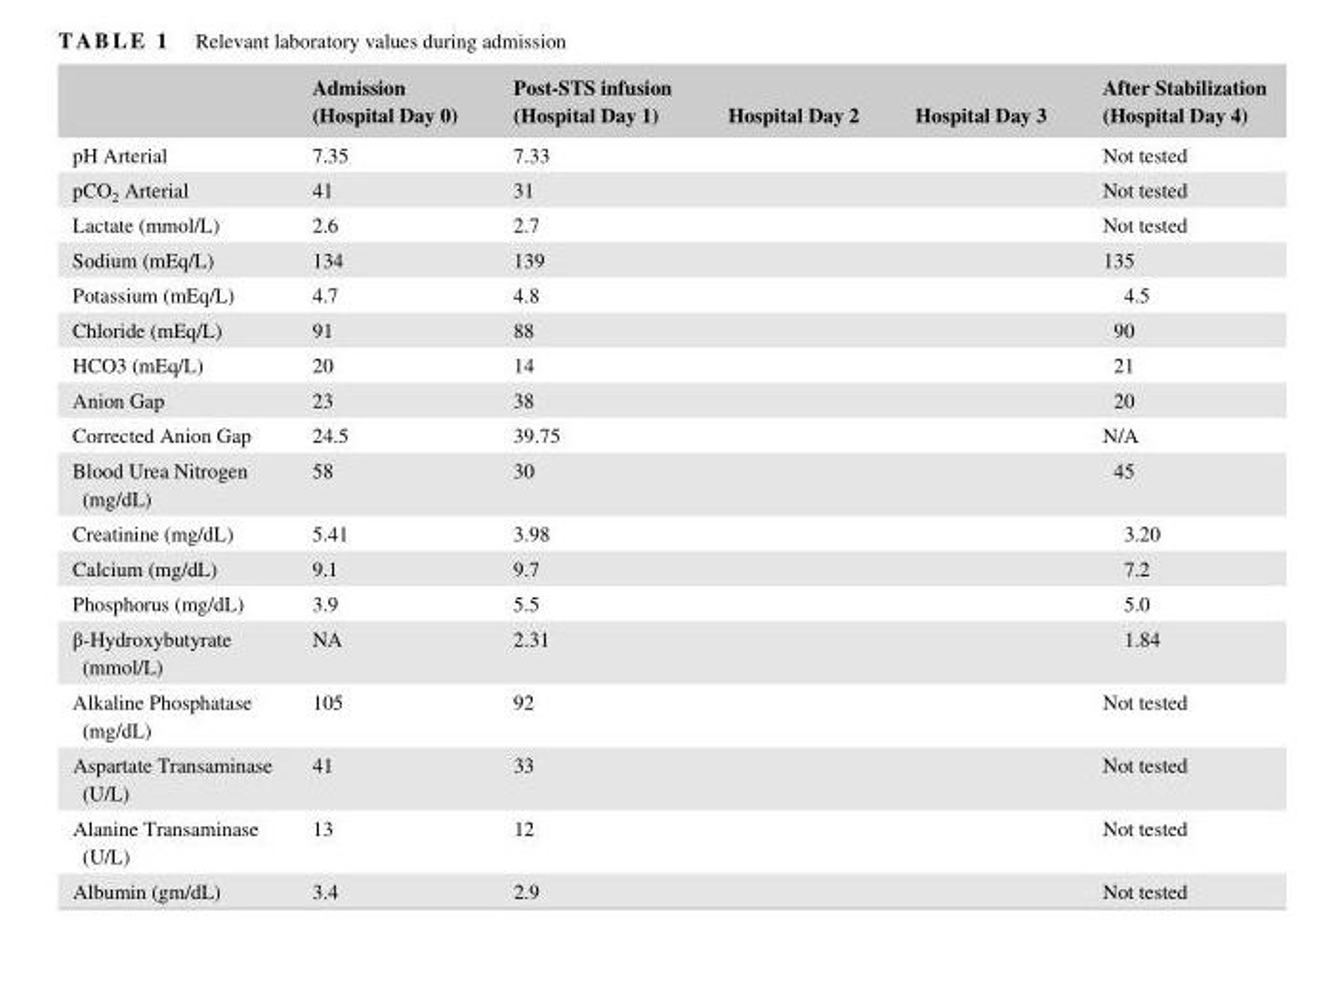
<table><thead><tr><td></td><td>Admission (Hospital Day 0)</td><td>Post- STS infusion (Hospital Day 1)</td><td>Hospital Day 2</td><td>Hospital Day 3</td><td>After Stabilization (Hospital Day 4)</td></tr></thead><tbody><tr><td>pH Arterial</td><td>7.35</td><td>7.33</td><td></td><td></td><td>Not tested</td></tr><tr><td>pCO<sub>2</sub> Arterial</td><td>41</td><td>31</td><td></td><td></td><td>Not tested</td></tr><tr><td>Lactate (mmol/L)</td><td>2.6</td><td>2.7</td><td></td><td></td><td>Not tested</td></tr><tr><td>Sodium (mEq/L)</td><td>134</td><td>139</td><td></td><td></td><td>135</td></tr><tr><td>Potassium (mEq/L)</td><td>4.7</td><td>4.8</td><td></td><td></td><td>4.5</td></tr><tr><td>Chloride (mEq/L)</td><td>91</td><td>88</td><td></td><td></td><td>90</td></tr><tr><td>HCO3 (mEq/L)</td><td>20</td><td>14</td><td></td><td></td><td>21</td></tr><tr><td>Anion Gap</td><td>23</td><td>38</td><td></td><td></td><td>20</td></tr><tr><td>Corrected Anion Gap</td><td>24.5</td><td>39.75</td><td></td><td></td><td>N/A</td></tr><tr><td>Blood Urea Nitrogen (mg/dL)</td><td>58</td><td>30</td><td></td><td></td><td>45</td></tr><tr><td>Creatinine (mg/dL)</td><td>5.41</td><td>3.98</td><td></td><td></td><td>3.20</td></tr><tr><td>Calcium (mg/dL)</td><td>9.1</td><td>9.7</td><td></td><td></td><td>7.2</td></tr><tr><td>Phosphorus (mg/dL)</td><td>3.9</td><td>5.5</td><td></td><td></td><td>5.0</td></tr><tr><td>β- Hydroxybutyrate (mmol/L)</td><td>NA</td><td>2.31</td><td></td><td></td><td>1.84</td></tr><tr><td>Alkaline Phosphatase (mg/dL)</td><td>105</td><td>92</td><td></td><td></td><td>Not tested</td></tr><tr><td>Aspartate Transaminase (U/L)</td><td>41</td><td>33</td><td></td><td></td><td>Not tested</td></tr><tr><td>Alanine Transaminase (U/L)</td><td>13</td><td>12</td><td></td><td></td><td>Not tested</td></tr><tr><td>Albumin (gm/dL)</td><td>3.4</td><td>2.9</td><td></td><td></td><td>Not tested</td></tr></tbody></table>